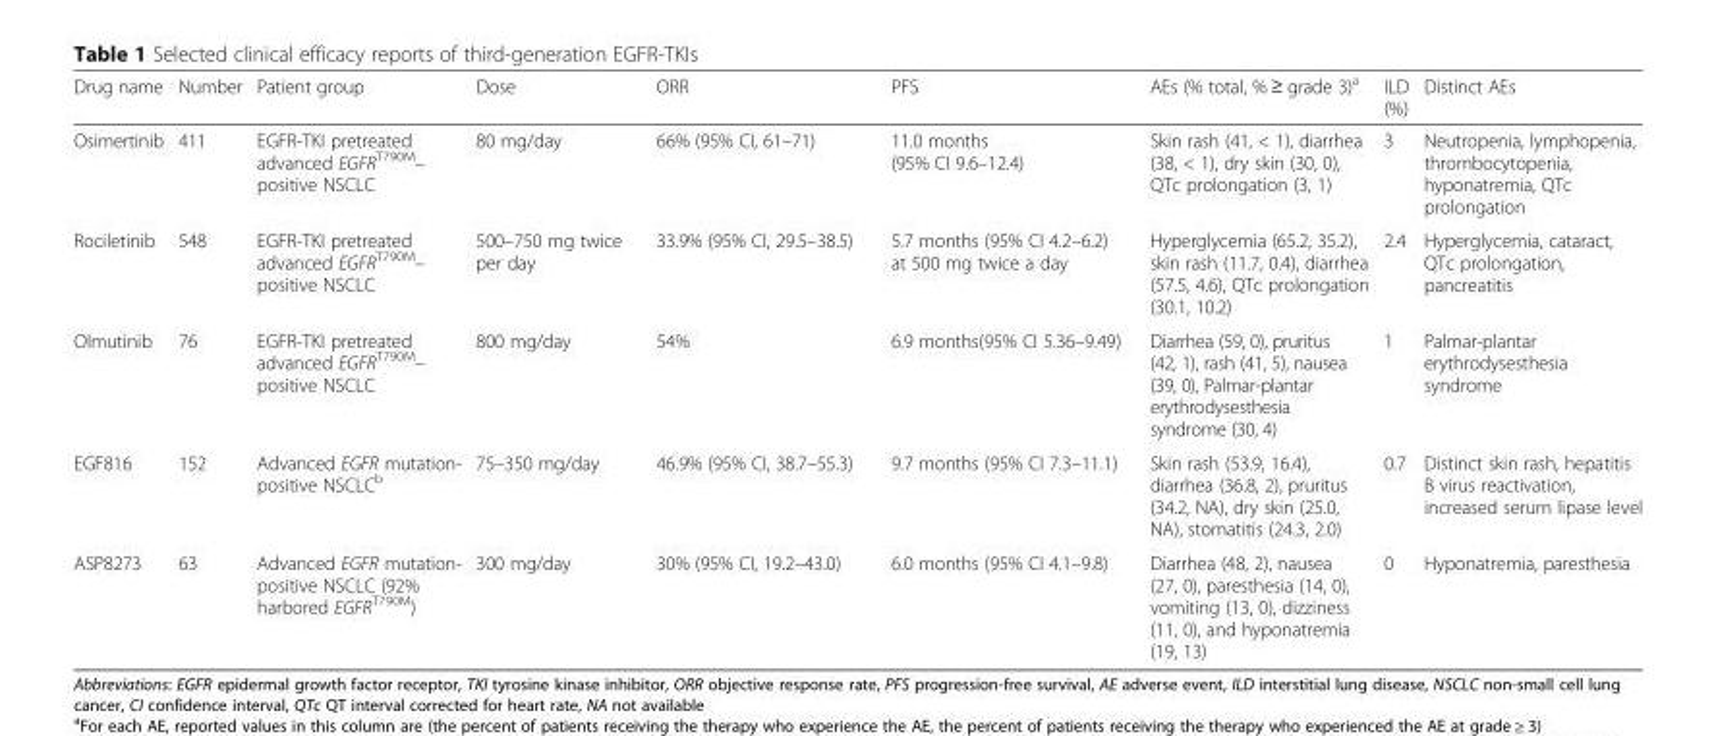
<table><thead><tr><td>Drug name</td><td>Number</td><td>Patient group</td><td>Dose</td><td>ORR</td><td>PFS</td><td>AEs (% total, % ≥ grade 3)<sup>a</sup></td><td>ILD (%)</td><td>Distinct AEs</td></tr></thead><tbody><tr><td>Osimertinib</td><td>411</td><td>EGFR-TKI pretreated advanced EGFR<sup>T790M</sup>– positive NSCLC</td><td>80 mg/day</td><td>66% (95% CI, 61–71)</td><td>11.0 months (95% CI 9.6–12.4)</td><td>Skin rash (41, &lt; 1), diarrhea (38, &lt; 1), dry skin (30, 0), QTc prolongation (3, 1)</td><td>3</td><td>Neutropenia, lymphopenia, thrombocytopenia, hyponatremia, QTc prolongation</td></tr><tr><td>Rociletinib</td><td>548</td><td>EGFR-TKI pretreated advanced EGFR<sup>T790M</sup>– positive NSCLC</td><td>500–750 mg twice per day</td><td>33.9% (95% CI, 29.5–38.5)</td><td>5.7 months (95% CI 4.2–6.2) at 500 mg twice a day</td><td>Hyperglycemia (65.2, 35.2), skin rash (11.7, 0.4), diarrhea (57.5, 4.6), QTc prolongation (30.1, 10.2)</td><td>2.4</td><td>Hyperglycemia, cataract, QTc prolongation, pancreatitis</td></tr><tr><td>Olmutinib</td><td>76</td><td>EGFR-TKI pretreated advanced EGFR<sup>T790M</sup>– positive NSCLC</td><td>800 mg/day</td><td>54%</td><td>6.9 months(95% CI 5.36–9.49)</td><td>Diarrhea (59, 0), pruritus (42, 1), rash (41, 5), nausea (39, 0), Palmar-plantar erythrodysesthesia syndrome (30, 4)</td><td>1</td><td>Palmar-plantar erythrodysesthesia syndrome</td></tr><tr><td>EGF816</td><td>152</td><td>Advanced EGFR mutation- positive NSCLC<sup>b</sup></td><td>75–350 mg/day</td><td>46.9% (95% CI, 38.7–55.3)</td><td>9.7 months (95% CI 7.3–11.1)</td><td>Skin rash (53.9, 16.4), diarrhea (36.8, 2), pruritus (34.2, NA), dry skin (25.0, NA), stomatitis (24.3, 2.0)</td><td>0.7</td><td>Distinct skin rash, hepatitis B virus reactivation, increased serum lipase level</td></tr><tr><td>ASP8273</td><td>63</td><td>Advanced EGFR mutation- positive NSCLC (92% harbored EGFR<sup>T790M</sup>)</td><td>300 mg/day</td><td>30% (95% CI, 19.2–43.0)</td><td>6.0 months (95% CI 4.1–9.8)</td><td>Diarrhea (48, 2), nausea (27, 0), paresthesia (14, 0), vomiting (13, 0), dizziness (11, 0), and hyponatremia (19, 13)</td><td>0</td><td>Hyponatremia, paresthesia</td></tr></tbody></table>